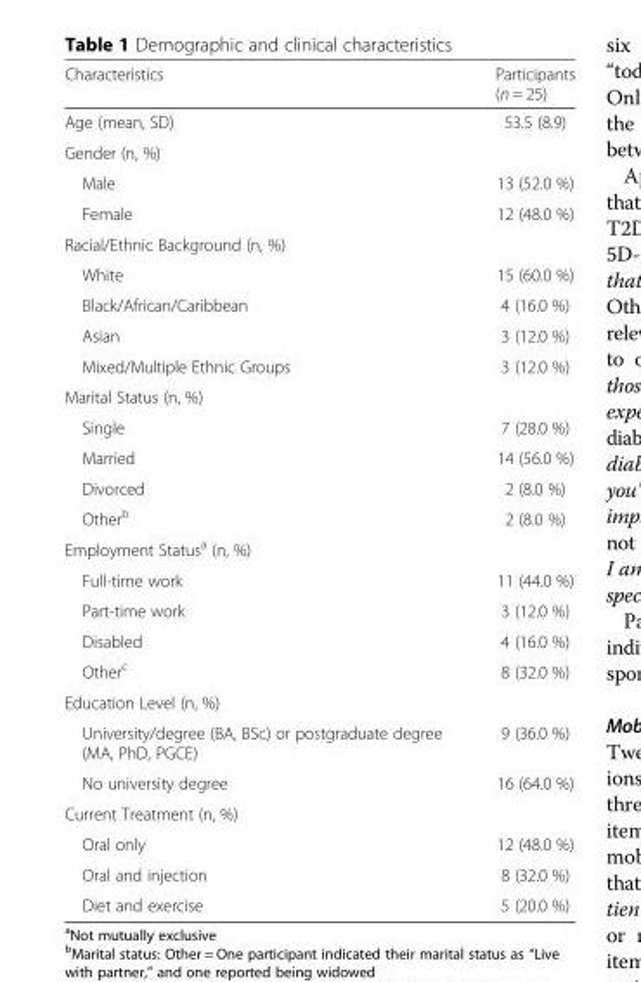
<table><thead><tr><td>Characteristics</td><td>Participants (n = 25)</td></tr></thead><tbody><tr><td>Age (mean, SD)</td><td>53.5 (8.9)</td></tr><tr><td colspan="2">Gender (n, %)</td></tr><tr><td>Male</td><td>13 (52.0 %)</td></tr><tr><td>Female</td><td>12 (48.0 %)</td></tr><tr><td colspan="2">Racial/Ethnic Background (n, %)</td></tr><tr><td>White</td><td>15 (60.0 %)</td></tr><tr><td>Black/African/Caribbean</td><td>4 (16.0 %)</td></tr><tr><td>Asian</td><td>3 (12.0 %)</td></tr><tr><td>Mixed/Multiple Ethnic Groups</td><td>3 (12.0 %)</td></tr><tr><td colspan="2">Marital Status (n, %)</td></tr><tr><td>Single</td><td>7 (28.0 %)</td></tr><tr><td>Married</td><td>14 (56.0 %)</td></tr><tr><td>Divorced</td><td>2 (8.0 %)</td></tr><tr><td>Other<sup>b</sup></td><td>2 (8.0 %)</td></tr><tr><td colspan="2">Employment Status<sup>a</sup> (n, %)</td></tr><tr><td>Full-time work</td><td>11 (44.0 %)</td></tr><tr><td>Part-time work</td><td>3 (12.0 %)</td></tr><tr><td>Disabled</td><td>4 (16.0 %)</td></tr><tr><td>Other<sup>c</sup></td><td>8 (32.0 %)</td></tr><tr><td colspan="2">Education Level (n, %)</td></tr><tr><td>University/degree (BA, BSc) or postgraduate degree (MA, PhD, PGCE)</td><td>9 (36.0 %)</td></tr><tr><td>No university degree</td><td>16 (64.0 %)</td></tr><tr><td colspan="2">Current Treatment (n, %)</td></tr><tr><td>Oral only</td><td>12 (48.0 %)</td></tr><tr><td>Oral and injection</td><td>8 (32.0 %)</td></tr><tr><td>Diet and exercise</td><td>5 (20.0 %)</td></tr></tbody></table>